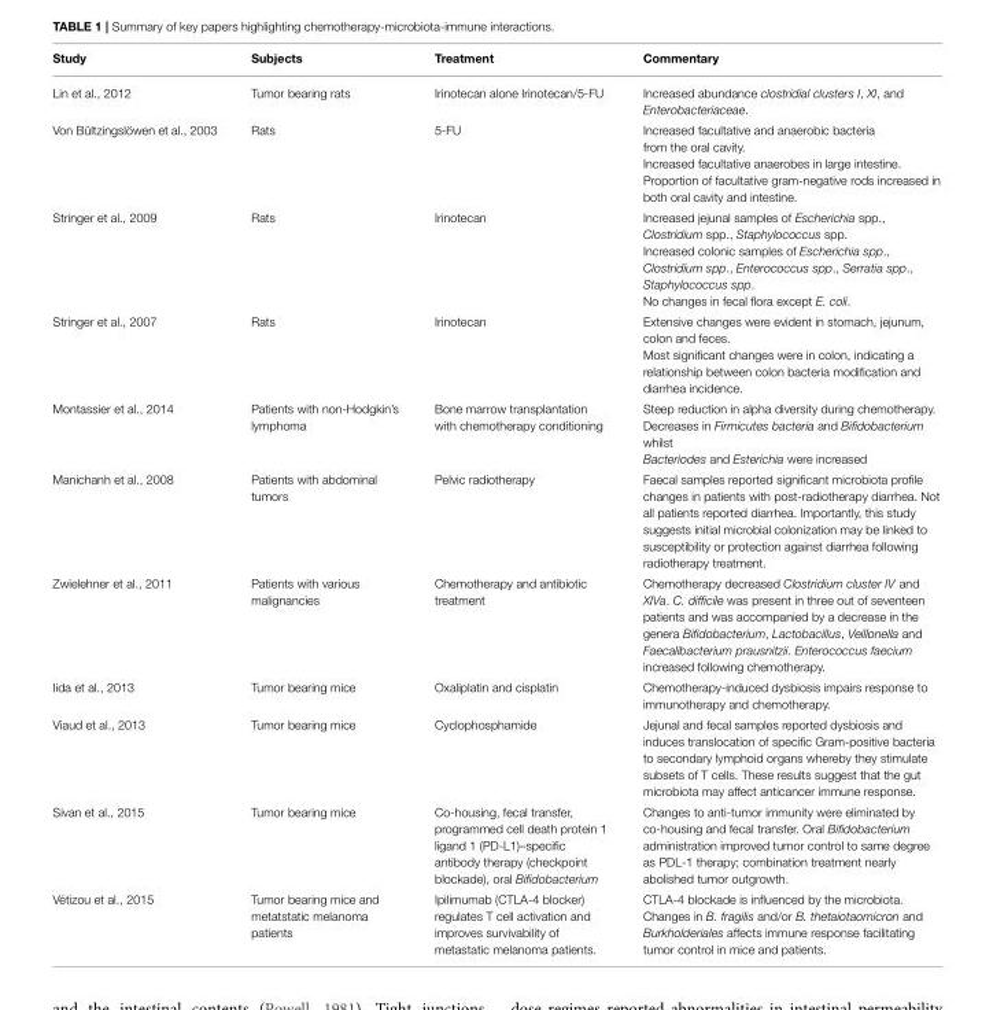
<table><thead><tr><td>Study</td><td>Subjects</td><td>Treatment</td><td>Commentary</td></tr></thead><tbody><tr><td>Lin et al., 2012</td><td>Tumor bearing rats</td><td>Irinotecan alone Irinotecan/5-FU</td><td>Increased abundance clostridial clusters I, XI, and Enterobacteriaceae.</td></tr><tr><td>Von Bültzingslöwen et al., 2003</td><td>Rats</td><td>5-FU</td><td>Increased facultative and anaerobic bacteria from the oral cavity. Increased facultative anaerobes in large intestine. Proportion of facultative gram-negative rods increased in both oral cavity and intestine.</td></tr><tr><td>Stringer et al., 2009</td><td>Rats</td><td>Irinotecan</td><td>Increased jejunal samples of Escherichia spp., Clostridium spp., Staphylococcus spp. Increased colonic samples of Escherichia spp., Clostridium spp., Enterococcus spp., Serratia spp., Staphylococcus spp. No changes in fecal flora except E. coli.</td></tr><tr><td>Stringer et al., 2007</td><td>Rats</td><td>Irinotecan</td><td>Extensive changes were evident in stomach, jejunum, colon and feces. Most significant changes were in colon, indicating a relationship between colon bacteria modification and diarrhea incidence.</td></tr><tr><td>Montassier et al., 2014</td><td>Patients with non-Hodgkin’s lymphoma</td><td>Bone marrow transplantation with chemotherapy conditioning</td><td>Steep reduction in alpha diversity during chemotherapy. Decreases in Firmicutes bacteria and Bifidobacterium whilst Bacteriodes and Esterichia were increased</td></tr><tr><td>Manichanh et al., 2008</td><td>Patients with abdominal tumors</td><td>Pelvic radiotherapy</td><td>Faecal samples reported significant microbiota profile changes in patients with post-radiotherapy diarrhea. Not all patients reported diarrhea. Importantly, this study suggests initial microbial colonization may be linked to susceptibility or protection against diarrhea following radiotherapy treatment.</td></tr><tr><td>Zwielehner et al., 2011</td><td>Patients with various malignancies</td><td>Chemotherapy and antibiotic treatment</td><td>Chemotherapy decreased Clostridium cluster IV and XIVa. C. difficile was present in three out of seventeen patients and was accompanied by a decrease in the genera Bifidobacterium, Lactobacillus, Veillonella and Faecalibacterium prausnitzii. Enterococcus faecium increased following chemotherapy.</td></tr><tr><td>Iida et al., 2013</td><td>Tumor bearing mice</td><td>Oxaliplatin and cisplatin</td><td>Chemotherapy-induced dysbiosis impairs response to immunotherapy and chemotherapy.</td></tr><tr><td>Viaud et al., 2013</td><td>Tumor bearing mice</td><td>Cyclophosphamide</td><td>Jejunal and fecal samples reported dysbiosis and induces translocation of specific Gram-positive bacteria to secondary lymphoid organs whereby they stimulate subsets of T cells. These results suggest that the gut microbiota may affect anticancer immune response.</td></tr><tr><td>Sivan et al., 2015</td><td>Tumor bearing mice</td><td>Co-housing, fecal transfer, programmed cell death protein 1 ligand 1 (PD-L1)–specific antibody therapy (checkpoint blockade), oral Bifidobacterium</td><td>Changes to anti-tumor immunity were eliminated by co-housing and fecal transfer. Oral Bifidobacterium administration improved tumor control to same degree as PDL-1 therapy; combination treatment nearly abolished tumor outgrowth.</td></tr><tr><td>Vétizou et al., 2015</td><td>Tumor bearing mice and metatstatic melanoma patients</td><td>Ipilimumab (CTLA-4 blocker) regulates T cell activation and improves survivability of metastatic melanoma patients.</td><td>CTLA-4 blockade is influenced by the microbiota. Changes in B. fragilis and/or B. thetaiotaomicron and Burkholderiales affects immune response facilitating tumor control in mice and patients.</td></tr></tbody></table>